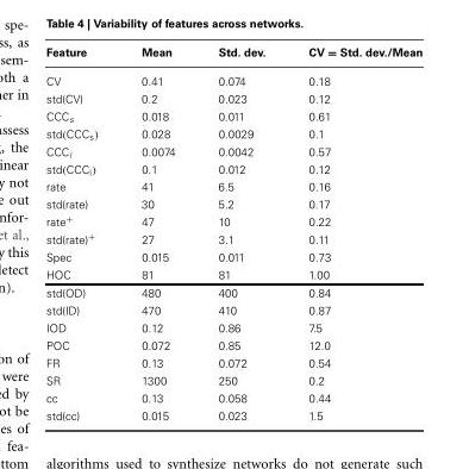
<table><thead><tr><td>Feature</td><td>Mean</td><td>Std. dev.</td><td>CV = Std. dev./Mean</td></tr></thead><tbody><tr><td>CV</td><td>0.41</td><td>0.074</td><td>0.18</td></tr><tr><td>std(CV)</td><td>0.2</td><td>0.023</td><td>0.12</td></tr><tr><td>CCC<sub>s</sub></td><td>0.018</td><td>0.011</td><td>0.61</td></tr><tr><td>std(CCC<sub>s</sub>)</td><td>0.028</td><td>0.0029</td><td>0.1</td></tr><tr><td>CCC<sub>l</sub></td><td>0.0074</td><td>0.0042</td><td>0.57</td></tr><tr><td>std(CCC<sub>l</sub>)</td><td>0.1</td><td>0.012</td><td>0.12</td></tr><tr><td>rate</td><td>41</td><td>6.5</td><td>0.16</td></tr><tr><td>std(rate)</td><td>30</td><td>5.2</td><td>0.17</td></tr><tr><td>rate<sup>+</sup></td><td>47</td><td>10</td><td>0.22</td></tr><tr><td>std(rate)<sup>+</sup></td><td>27</td><td>3.1</td><td>0.11</td></tr><tr><td>Spec</td><td>0.015</td><td>0.011</td><td>0.73</td></tr><tr><td>HOC</td><td>81</td><td>81</td><td>1.00</td></tr><tr><td>std(OD)</td><td>480</td><td>400</td><td>0.84</td></tr><tr><td>std(ID)</td><td>470</td><td>410</td><td>0.87</td></tr><tr><td>IOD</td><td>0.12</td><td>0.86</td><td>7.5</td></tr><tr><td>POC</td><td>0.072</td><td>0.85</td><td>12.0</td></tr><tr><td>FR</td><td>0.13</td><td>0.072</td><td>0.54</td></tr><tr><td>§R</td><td>1300</td><td>250</td><td>0.2</td></tr><tr><td>cc</td><td>0.13</td><td>0.058</td><td>0.44</td></tr><tr><td>std(cc)</td><td>0.015</td><td>0.023</td><td>1.5</td></tr></tbody></table>